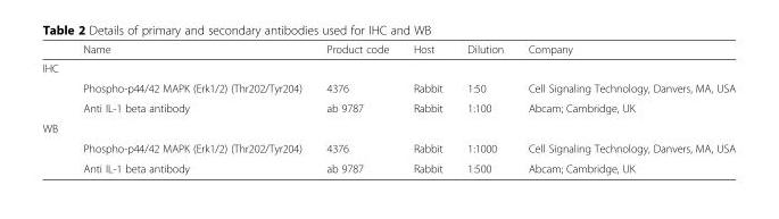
<table><thead><tr><td></td><td>Name</td><td>Product code</td><td>Host</td><td>Dilution</td><td>Company</td></tr></thead><tbody><tr><td colspan="6">IHC</td></tr><tr><td></td><td>Phospho-p44/42 MAPK (Erk1/2) (Thr202/Tyr204)</td><td>4376</td><td>Rabbit</td><td>1:50</td><td>Cell Signaling Technology, Danvers, MA, USA</td></tr><tr><td></td><td>Anti IL-1 beta antibody</td><td>ab 9787</td><td>Rabbit</td><td>1:100</td><td>Abcam; Cambridge, UK</td></tr><tr><td colspan="6">WB</td></tr><tr><td></td><td>Phospho-p44/42 MAPK (Erk1/2) (Thr202/Tyr204)</td><td>4376</td><td>Rabbit</td><td>1:1000</td><td>Cell Signaling Technology, Danvers, MA, USA</td></tr><tr><td></td><td>Anti IL-1 beta antibody</td><td>ab 9787</td><td>Rabbit</td><td>1:500</td><td>Abcam; Cambridge, UK</td></tr></tbody></table>